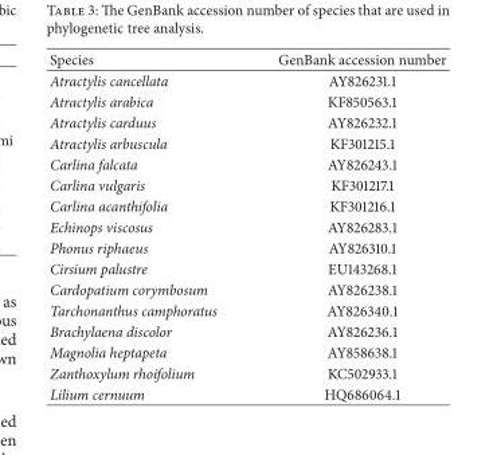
<table><thead><tr><td>Species</td><td>GenBank accession number</td></tr></thead><tbody><tr><td>Atractylis cancellata</td><td>AY826231.1</td></tr><tr><td>Atractylis arabica</td><td>KF850563.1</td></tr><tr><td>Atractylis carduus</td><td>AY826232.1</td></tr><tr><td>Atractylis arbuscula</td><td>KF301215.1</td></tr><tr><td>Carlina falcata</td><td>AY826243.1</td></tr><tr><td>Carlina vulgaris</td><td>KF301217.1</td></tr><tr><td>Carlina acanthifolia</td><td>KF301216.1</td></tr><tr><td>Echinops viscosus</td><td>AY826283.1</td></tr><tr><td>Phonus riphaeus</td><td>AY826310.1</td></tr><tr><td>Cirsium palustre</td><td>EU143268.1</td></tr><tr><td>Cardopatium corymbosum</td><td>AY826238.1</td></tr><tr><td>Tarchonanthus camphoratus</td><td>AY826340.1</td></tr><tr><td>Brachylaena discolor</td><td>AY826236.1</td></tr><tr><td>Magnolia heptapeta</td><td>AY858638.1</td></tr><tr><td>Zanthoxylum rhoifolium</td><td>KC502933.1</td></tr><tr><td>Lilium cernuum</td><td>HQ686064.1</td></tr></tbody></table>